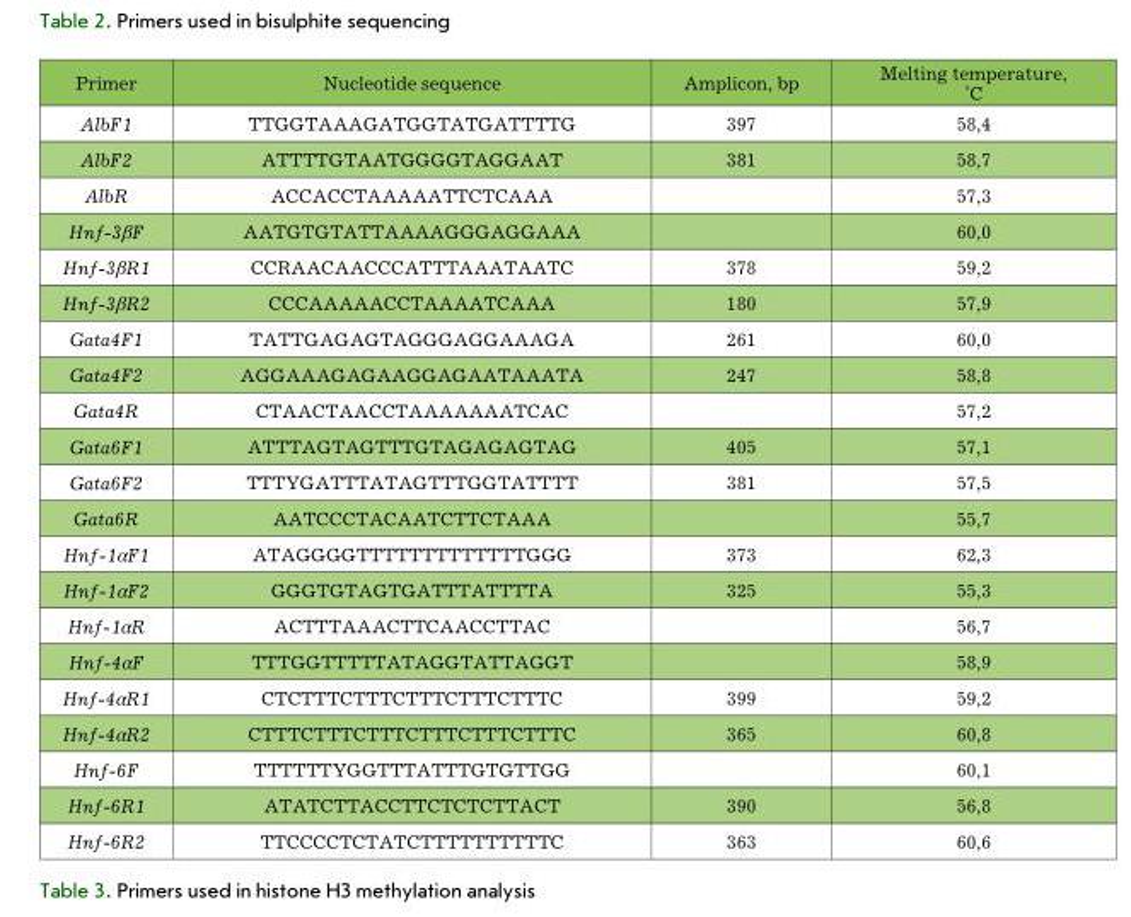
<table><thead><tr><td>Primer</td><td>Nucleotide sequence</td><td>Amplicon, bp</td><td>Melting temperature, °C</td></tr></thead><tbody><tr><td>AlbF1</td><td>TTGGTAAAGATGGTATGATTTTG</td><td>397</td><td>58,4</td></tr><tr><td>AlbF2</td><td>ATTTTGTAATGGGGTAGGAAT</td><td>381</td><td>58,7</td></tr><tr><td>AlbR</td><td>ACCACCTAAAAATTCTCAAA</td><td></td><td>57,3</td></tr><tr><td>Hnf-3βF</td><td>AATGTGTATTAAAAGGGAGGAAA</td><td></td><td>60,0</td></tr><tr><td>Hnf-3βR1</td><td>CCRAACAACCCATTTAAATAATC</td><td>378</td><td>59,2</td></tr><tr><td>Hnf-3βR2</td><td>CCCAAAAACCTAAAATCAAA</td><td>180</td><td>57,9</td></tr><tr><td>Gata4F1</td><td>TATTGAGAGTAGGGAGGAAAGA</td><td>261</td><td>60,0</td></tr><tr><td>Gata4F2</td><td>AGGAAAGAGAAGGAGAATAAATA</td><td>247</td><td>58,8</td></tr><tr><td>Gata4R</td><td>CTAACTAACCTAAAAAAATCAC</td><td></td><td>57,2</td></tr><tr><td>Gata6F1</td><td>ATTTAGTAGTTTGTAGAGAGTAG</td><td>405</td><td>57,1</td></tr><tr><td>Gata6F2</td><td>TTTYGATTTATAGTTTGGTATTTT</td><td>381</td><td>57,5</td></tr><tr><td>Gata6R</td><td>AATCCCTACAATCTTCTAAA</td><td></td><td>55,7</td></tr><tr><td>Hnf-1αF1</td><td>ATAGGGGTTTTTTTTTTTTTGGG</td><td>373</td><td>62,3</td></tr><tr><td>Hnf-1αF2</td><td>GGGTGTAGTGATTTATTTTA</td><td>325</td><td>55,3</td></tr><tr><td>Hnf-1αR</td><td>ACTTTAAACTTCAACCTTAC</td><td></td><td>56,7</td></tr><tr><td>Hnf-4αF</td><td>TTTGGTTTTTATAGGTATTAGGT</td><td></td><td>58,9</td></tr><tr><td>Hnf-4αR1</td><td>CTCTTTCTTTCTTTCTTTCTTTC</td><td>399</td><td>59,2</td></tr><tr><td>Hnf-4αR2</td><td>CTTTCTTTCTTTCTTTCTTTCTTTC</td><td>365</td><td>60,8</td></tr><tr><td>Hnf-6F</td><td>TTTTTTYGGTTTATTTGTGTTGG</td><td></td><td>60,1</td></tr><tr><td>Hnf-6R1</td><td>ATATCTTACCTTCTCTCTTACT</td><td>390</td><td>56,8</td></tr><tr><td>Hnf-6R2</td><td>TTCCCCTCTATCTTTTTTTTTTC</td><td>363</td><td>60,6</td></tr></tbody></table>